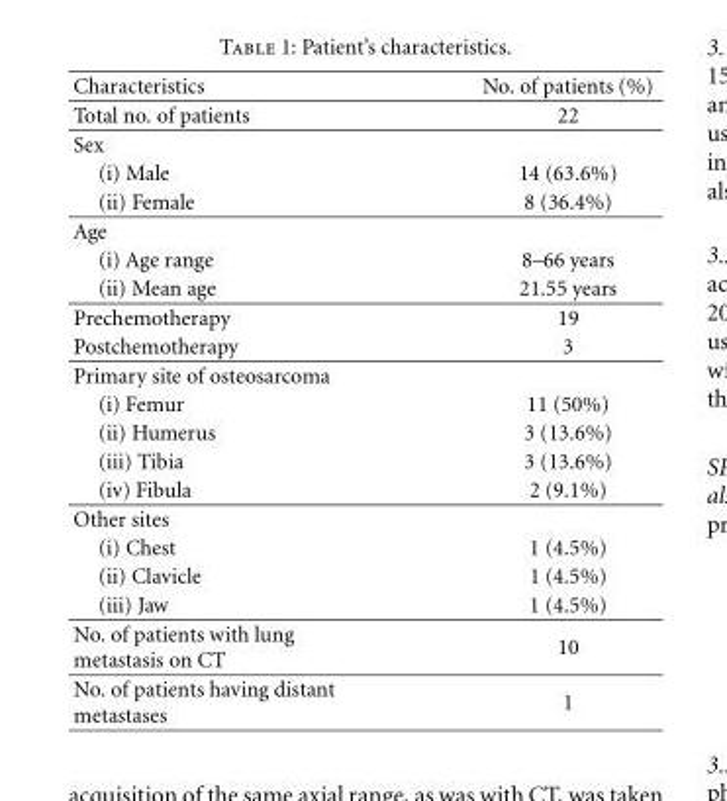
<table><thead><tr><td>Characteristics</td><td>No. of patients (%)</td></tr></thead><tbody><tr><td>Total no. of patients</td><td>22</td></tr><tr><td colspan="2">Sex</td></tr><tr><td>(i) Male</td><td>14 (63.6%)</td></tr><tr><td>(ii) Female</td><td>8 (36.4%)</td></tr><tr><td colspan="2">Age</td></tr><tr><td>(i) Age range</td><td>8–66 years</td></tr><tr><td>(ii) Mean age</td><td>21.55 years</td></tr><tr><td>Prechemotherapy</td><td>19</td></tr><tr><td>Postchemotherapy</td><td>3</td></tr><tr><td colspan="2">Primary site of osteosarcoma</td></tr><tr><td>(i) Femur</td><td>11 (50%)</td></tr><tr><td>(ii) Humerus</td><td>3 (13.6%)</td></tr><tr><td>(iii) Tibia</td><td>3 (13.6%)</td></tr><tr><td>(iv) Fibula</td><td>2 (9.1%)</td></tr><tr><td colspan="2">Other sites</td></tr><tr><td>(i) Chest</td><td>1 (4.5%)</td></tr><tr><td>(ii) Clavicle</td><td>1 (4.5%)</td></tr><tr><td>(iii) Jaw</td><td>1 (4.5%)</td></tr><tr><td>No. of patients with lung metastasis on CT</td><td>10</td></tr><tr><td>No. of patients having distant metastases</td><td>1</td></tr></tbody></table>